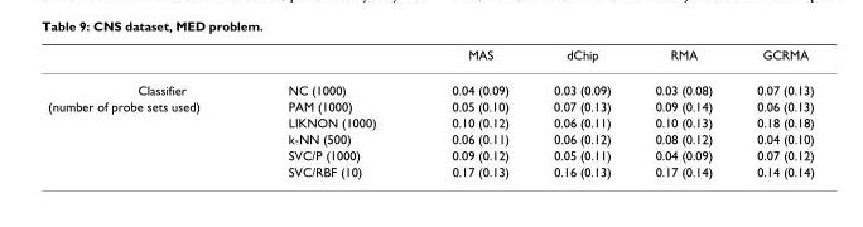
<table><thead><tr><td></td><td></td><td>MAS</td><td>dChip</td><td>RMA</td><td>GCRMA</td></tr></thead><tbody><tr><td>Classifier</td><td>NC (1000)</td><td>0.04 (0.09)</td><td>0.03 (0.09)</td><td>0.03 (0.08)</td><td>0.07 (0.13)</td></tr><tr><td rowspan="5">(number of probe sets used)</td><td>PAM (1000)</td><td>0.05 (0.10)</td><td>0.07 (0.13)</td><td>0.09 (0.14)</td><td>0.06 (0.13)</td></tr><tr><td>LIKNON (1000)</td><td>0.10 (0.12)</td><td>0.06 (0.11)</td><td>0.10 (0.13)</td><td>0.18 (0.18)</td></tr><tr><td>k-NN (500)</td><td>0.06 (0.11)</td><td>0.06 (0.12)</td><td>0.08 (0.12)</td><td>0.04 (0.10)</td></tr><tr><td>SVC/P (1000)</td><td>0.09 (0.12)</td><td>0.05 (0.11)</td><td>0.04 (0.09)</td><td>0.07 (0.12)</td></tr><tr><td>SVC/RBF (10)</td><td>0.17 (0.13)</td><td>0.16 (0.13)</td><td>0.17 (0.14)</td><td>0.14 (0.14)</td></tr></tbody></table>